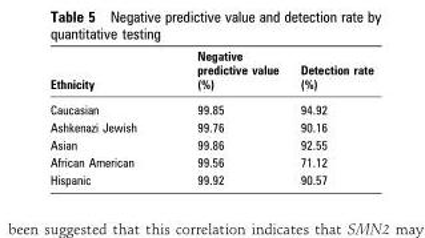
<table><thead><tr><td>Ethnicity</td><td>Negative predictive value (%)</td><td>Detection rate (%)</td></tr></thead><tbody><tr><td>Caucasian</td><td>99.85</td><td>94.92</td></tr><tr><td>Ashkenazi Jewish</td><td>99.76</td><td>90.16</td></tr><tr><td>Asian</td><td>99.86</td><td>92.55</td></tr><tr><td>African American</td><td>99.56</td><td>71.12</td></tr><tr><td>Hispanic</td><td>99.92</td><td>90.57</td></tr></tbody></table>